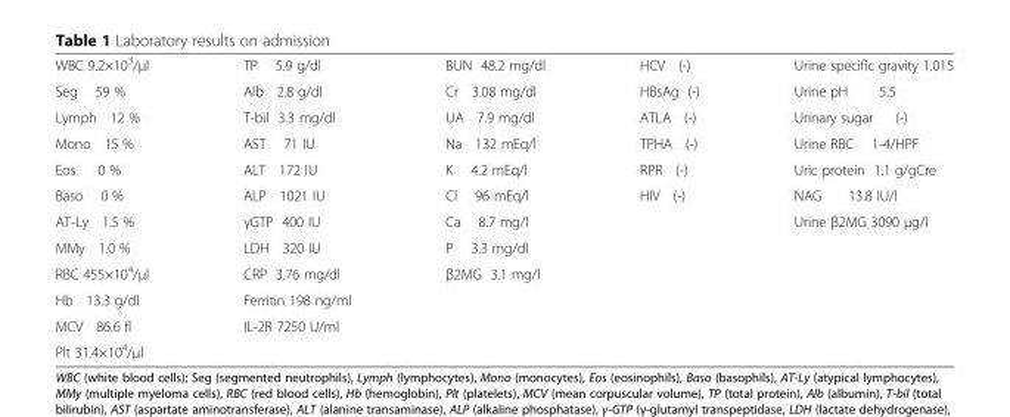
<table><tbody><tr><td>WBC 9.2×10<sup>3</sup>/μl</td><td>TP 5.9 g/dl</td><td>BUN 48.2 mg/dl</td><td>HCV (-)</td><td>Urine specific gravity 1.015</td></tr><tr><td>Seg 59 %</td><td>Alb 2.8 g/dl</td><td>Cr 3.08 mg/dl</td><td>HBsAg (-)</td><td>Urine pH 5.5</td></tr><tr><td>Lymph 12 %</td><td>T-bil 3.3 mg/dl</td><td>UA 7.9 mg/dl</td><td>ATLA (-)</td><td>Urinary sugar (-)</td></tr><tr><td>Mono 15 %</td><td>AST 71 IU</td><td>Na 132 mEq/l</td><td>TPHA (-)</td><td>Urine RBC 1-4/HPF</td></tr><tr><td>Eos 0 %</td><td>ALT 172 IU</td><td>K 4.2 mEq/l</td><td>RPR (-)</td><td>Uric protein 1.1 g/gCre</td></tr><tr><td>Baso 0 %</td><td>ALP 1021 IU</td><td>Cl 96 mEq/l</td><td>HIV (-)</td><td>NAG 13.8 IU/l</td></tr><tr><td>AT-Ly 1.5 %</td><td>γGTP 400 IU</td><td>Ca 8.7 mg/l</td><td rowspan="6"></td><td>Urine β2MG 3090 μg/l</td></tr><tr><td>MMy 1.0 %</td><td>LDH 320 IU</td><td>P 3.3 mg/dl</td><td rowspan="5"></td></tr><tr><td>RBC 455×10<sup>4</sup>/μl</td><td>CRP 3.76 mg/dl</td><td>β2MG 3.1 mg/l</td></tr><tr><td>Hb 13.3 g/dl</td><td>Ferritin 198 ng/ml</td><td rowspan="3"></td></tr><tr><td>MCV 86.6 fl</td><td>IL-2R 7250 U/ml</td></tr><tr><td colspan="2">Plt 31.4×10<sup>4</sup>/μl</td></tr></tbody></table>